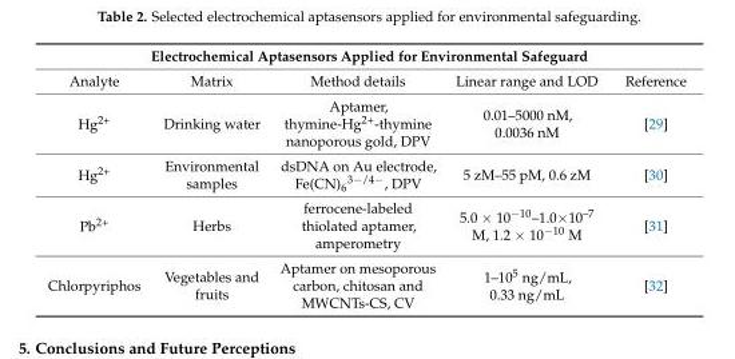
<table><thead><tr><td colspan="5">Electrochemical Aptasensors Applied for Environmental Safeguard</td></tr><tr><td>Analyte</td><td>Matrix</td><td>Method details</td><td>Linear range and LOD</td><td>Reference</td></tr></thead><tbody><tr><td>Hg<sup>2+</sup></td><td>Drinking water</td><td>Aptamer, thymine-Hg<sup>2+</sup>-thymine nanoporous gold, DPV</td><td>0.01–5000 nM, 0.0036 nM</td><td>[29]</td></tr><tr><td>Hg<sup>2+</sup></td><td>Environmental samples</td><td>dsDNA on Au electrode, Fe(CN)<sub>6</sub><sup>3−/4−</sup>, DPV</td><td>5 zM–55 pM, 0.6 zM</td><td>[30]</td></tr><tr><td>Pb<sup>2+</sup></td><td>Herbs</td><td>ferrocene-labeled thiolated aptamer, amperometry</td><td>5.0 × 10<sup>−10</sup>–1.0×10<sup>–7</sup> M, 1.2 × 10<sup>−10</sup> M</td><td>[31]</td></tr><tr><td>Chlorpyriphos</td><td>Vegetables and fruits</td><td>Aptamer on mesoporous carbon, chitosan and MWCNTs-CS, CV</td><td>1–10<sup>5</sup> ng/mL, 0.33 ng/mL</td><td>[32]</td></tr></tbody></table>